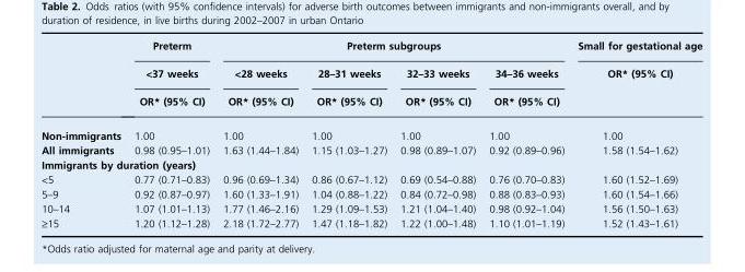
<table><thead><tr><td rowspan="3"></td><td rowspan="3">Preterm &lt;37 weeks OR* (95% CI)</td><td colspan="4">Preterm subgroups</td><td rowspan="3">Small for gestational age OR* (95% CI)</td></tr><tr><td rowspan="2">&lt;28 weeks OR* (95% CI)</td><td rowspan="2">28–31 weeks OR* (95% CI)</td><td rowspan="2">32–33 weeks OR* (95% CI)</td><td rowspan="2">34–36 weeks OR* (95% CI)</td></tr><tr></tr></thead><tbody><tr><td>Non-immigrants</td><td>1.00</td><td>1.00</td><td>1.00</td><td>1.00</td><td>1.00</td><td>1.00</td></tr><tr><td>All immigrants</td><td>0.98 (0.95–1.01)</td><td>1.63 (1.44–1.84)</td><td>1.15 (1.03–1.27)</td><td>0.98 (0.89–1.07)</td><td>0.92 (0.89–0.96)</td><td>1.58 (1.54–1.62)</td></tr><tr><td colspan="7">Immigrants by duration (years)</td></tr><tr><td>&lt;5</td><td>0.77 (0.71–0.83)</td><td>0.96 (0.69–1.34)</td><td>0.86 (0.67–1.12)</td><td>0.69 (0.54–0.88)</td><td>0.76 (0.70–0.83)</td><td>1.60 (1.52–1.69)</td></tr><tr><td>5–9</td><td>0.92 (0.87–0.97)</td><td>1.60 (1.33–1.91)</td><td>1.04 (0.88–1.22)</td><td>0.84 (0.72–0.98)</td><td>0.88 (0.83–0.93)</td><td>1.60 (1.54–1.66)</td></tr><tr><td>10–14</td><td>1.07 (1.01–1.13)</td><td>1.77 (1.46–2.16)</td><td>1.29 (1.09–1.53)</td><td>1.21 (1.04–1.40)</td><td>0.98 (0.92–1.04)</td><td>1.56 (1.50–1.63)</td></tr><tr><td>‡15</td><td>1.20 (1.12–1.28)</td><td>2.18 (1.72–2.77)</td><td>1.47 (1.18–1.82)</td><td>1.22 (1.00–1.48)</td><td>1.10 (1.01–1.19)</td><td>1.52 (1.43–1.61)</td></tr></tbody></table>